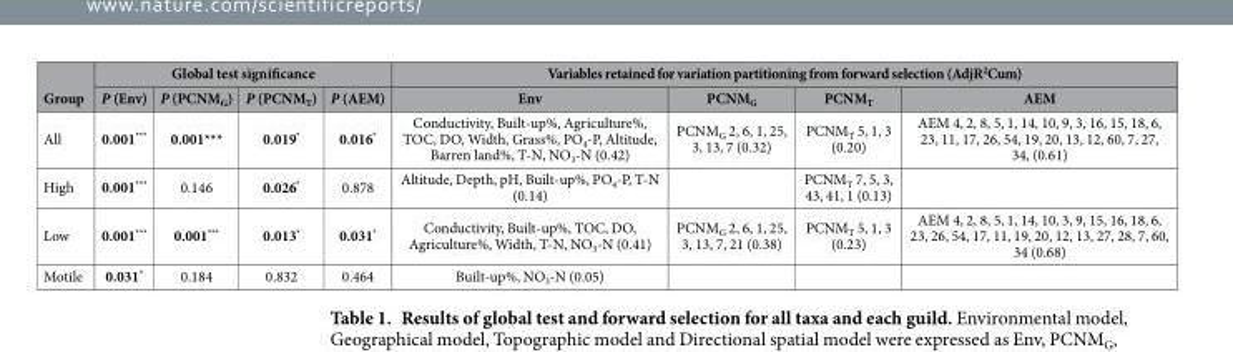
<table><thead><tr><td rowspan="2">Group</td><td colspan="4">Global test significance</td><td colspan="4">Variables retained for variation partitioning from forward selection (AdjR<sup>2</sup>Cum)</td></tr><tr><td>P (Env)</td><td>P (PCNM<sub>G</sub>)</td><td>P (PCNM<sub>T</sub>)</td><td>P (AEM)</td><td>Env</td><td>PCNM<sub>G</sub></td><td>PCNM<sub>T</sub></td><td>AEM</td></tr></thead><tbody><tr><td>All</td><td>0.001***</td><td>0.001***</td><td>0.019*</td><td>0.016*</td><td>Conductivity, Built-up%, Agriculture%, TOC, DO, Width, Grass%, PO<sub>4</sub>-P, Altitude, Barren land%, T-N, NO<sub>3</sub>-N (0.42)</td><td>PCNM<sub>G</sub> 2, 6, 1, 25, 3, 13, 7 (0.32)</td><td>PCNM<sub>T</sub> 5, 1, 3 (0.20)</td><td>AEM 4, 2, 8, 5, 1, 14, 10, 9, 3, 16, 15, 18, 6, 23, 11, 17, 26, 54, 19, 20, 13, 12, 60, 7, 27, 34, (0.61)</td></tr><tr><td>High</td><td>0.001***</td><td>0.146</td><td>0.026*</td><td>0.878</td><td>Altitude, Depth, pH, Built-up%, PO<sub>4</sub>-P, T-N (0.14)</td><td></td><td>PCNM<sub>T</sub> 7, 5, 3, 43, 41, 1 (0.13)</td><td></td></tr><tr><td>Low</td><td>0.001***</td><td>0.001***</td><td>0.013*</td><td>0.031*</td><td>Conductivity, Built-up%, TOC, DO, Agriculture%, Width, T-N, NO<sub>3</sub>-N (0.41)</td><td>PCNM<sub>G</sub> 2, 6, 1, 25, 3, 13, 7, 21 (0.38)</td><td>PCNM<sub>T</sub> 5, 1, 3 (0.23)</td><td>AEM 4, 2, 8, 5, 1, 14, 10, 3, 9, 15, 16, 18, 6, 23, 26, 54, 17, 11, 19, 20, 12, 13, 27, 28, 7, 60, 34 (0.68)</td></tr><tr><td>Motile</td><td>0.031*</td><td>0.184</td><td>0.832</td><td>0.464</td><td>Built-up%, NO<sub>3</sub>-N (0.05)</td><td></td><td></td><td></td></tr></tbody></table>